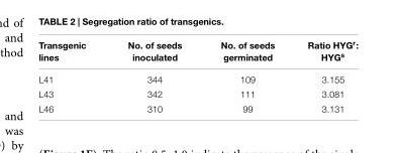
<table><thead><tr><td>Transgenic lines</td><td>No. of seeds inoculated</td><td>No. of seeds germinated</td><td>Ratio HYG<sup>r</sup>: HYG<sup>s</sup></td></tr></thead><tbody><tr><td>L41</td><td>344</td><td>109</td><td>3.155</td></tr><tr><td>L43</td><td>342</td><td>111</td><td>3.081</td></tr><tr><td>L46</td><td>310</td><td>99</td><td>3.131</td></tr></tbody></table>